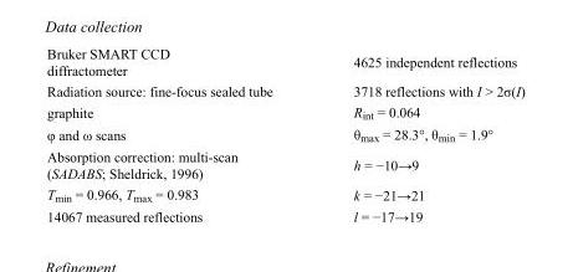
<table><tbody><tr><td>Bruker SMART CCD diffractometer</td><td>4625 independent reflections</td></tr><tr><td>Radiation source: fine-focus sealed tube</td><td>3718 reflections with I &gt; 2σ(I)</td></tr><tr><td>graphite</td><td>R<sub>int</sub> = 0.064</td></tr><tr><td>φ and ω scans</td><td>θ<sub>max</sub> = 28.3°, θ<sub>min</sub> = 1.9°</td></tr><tr><td>Absorption correction: multi-scan (SADABS; Sheldrick, 1996)</td><td>h = −10→9</td></tr><tr><td>T<sub>min</sub> = 0.966, T<sub>max</sub> = 0.983</td><td>k = −21→21</td></tr><tr><td>14067 measured reflections</td><td>l = −17→19</td></tr></tbody></table>